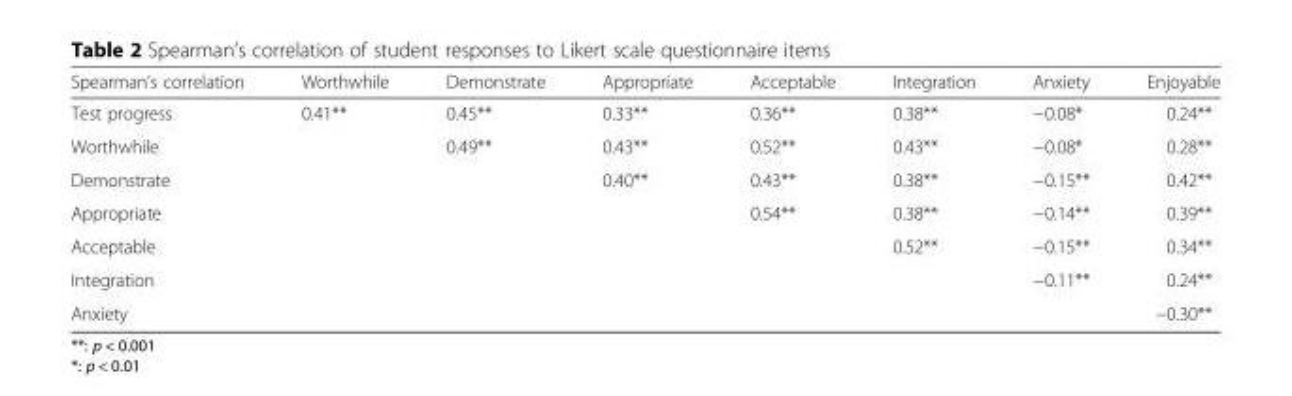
<table><thead><tr><td>Spearman’s correlation</td><td>Worthwhile</td><td>Demonstrate</td><td>Appropriate</td><td>Acceptable</td><td>Integration</td><td>Anxiety</td><td>Enjoyable</td></tr></thead><tbody><tr><td>Test progress</td><td>0.41**</td><td>0.45**</td><td>0.33**</td><td>0.36**</td><td>0.38**</td><td>−0.08*</td><td>0.24**</td></tr><tr><td>Worthwhile</td><td></td><td>0.49**</td><td>0.43**</td><td>0.52**</td><td>0.43**</td><td>−0.08*</td><td>0.28**</td></tr><tr><td>Demonstrate</td><td></td><td></td><td>0.40**</td><td>0.43**</td><td>0.38**</td><td>−0.15**</td><td>0.42**</td></tr><tr><td>Appropriate</td><td></td><td></td><td></td><td>0.54**</td><td>0.38**</td><td>−0.14**</td><td>0.39**</td></tr><tr><td>Acceptable</td><td></td><td></td><td></td><td></td><td>0.52**</td><td>−0.15**</td><td>0.34**</td></tr><tr><td>Integration</td><td></td><td></td><td></td><td></td><td></td><td>−0.11**</td><td>0.24**</td></tr><tr><td>Anxiety</td><td></td><td></td><td></td><td></td><td></td><td></td><td>−0.30**</td></tr></tbody></table>